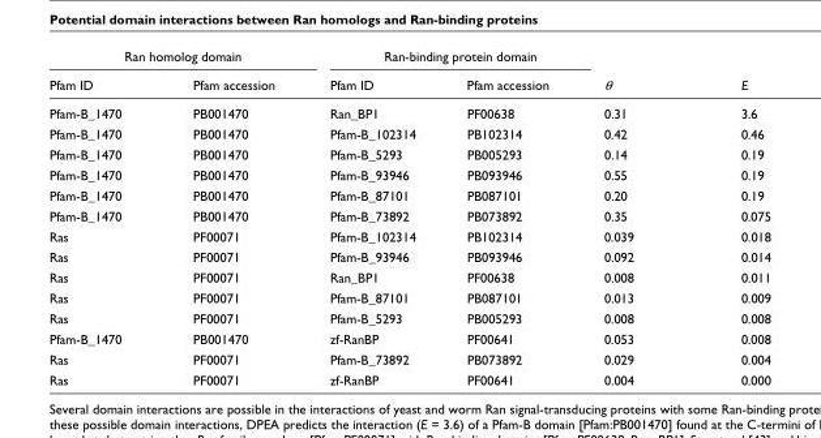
<table><thead><tr><td colspan="2">Ran homolog domain</td><td colspan="2">Ran-binding protein domain</td><td rowspan="2">θ</td><td rowspan="2">E</td></tr><tr><td>Pfam ID</td><td>Pfam accession</td><td>Pfam ID</td><td>Pfam accession</td></tr></thead><tbody><tr><td>Pfam-B_1470</td><td>PB001470</td><td>Ran_BP1</td><td>PF00638</td><td>0.31</td><td>3.6</td></tr><tr><td>Pfam-B_1470</td><td>PB001470</td><td>Pfam-B_102314</td><td>PB102314</td><td>0.42</td><td>0.46</td></tr><tr><td>Pfam-B_1470</td><td>PB001470</td><td>Pfam-B_5293</td><td>PB005293</td><td>0.14</td><td>0.19</td></tr><tr><td>Pfam-B_1470</td><td>PB001470</td><td>Pfam-B_93946</td><td>PB093946</td><td>0.55</td><td>0.19</td></tr><tr><td>Pfam-B_1470</td><td>PB001470</td><td>Pfam-B_87101</td><td>PB087101</td><td>0.20</td><td>0.19</td></tr><tr><td>Pfam-B_1470</td><td>PB001470</td><td>Pfam-B_73892</td><td>PB073892</td><td>0.35</td><td>0.075</td></tr><tr><td>Ras</td><td>PF00071</td><td>Pfam-B_102314</td><td>PB102314</td><td>0.039</td><td>0.018</td></tr><tr><td>Ras</td><td>PF00071</td><td>Pfam-B_93946</td><td>PB093946</td><td>0.092</td><td>0.014</td></tr><tr><td>Ras</td><td>PF00071</td><td>Ran_BP1</td><td>PF00638</td><td>0.008</td><td>0.011</td></tr><tr><td>Ras</td><td>PF00071</td><td>Pfam-B_87101</td><td>PB087101</td><td>0.013</td><td>0.009</td></tr><tr><td>Ras</td><td>PF00071</td><td>Pfam-B_5293</td><td>PB005293</td><td>0.008</td><td>0.008</td></tr><tr><td>Pfam-B_1470</td><td>PB001470</td><td>zf-RanBP</td><td>PF00641</td><td>0.053</td><td>0.008</td></tr><tr><td>Ras</td><td>PF00071</td><td>Pfam-B_73892</td><td>PB073892</td><td>0.029</td><td>0.004</td></tr><tr><td>Ras</td><td>PF00071</td><td>zf-RanBP</td><td>PF00641</td><td>0.004</td><td>0.000</td></tr></tbody></table>